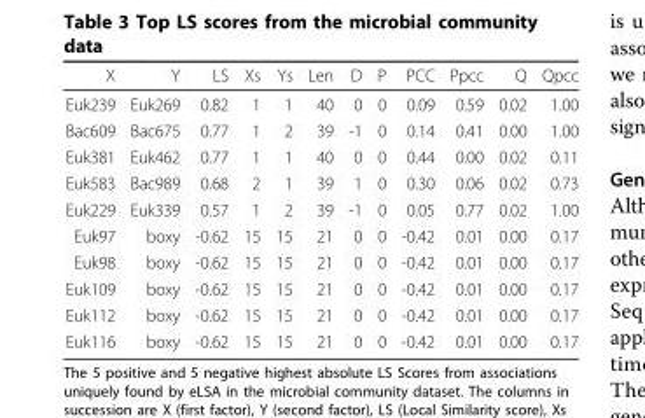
<table><thead><tr><td>X</td><td>Y</td><td>LS</td><td>Xs</td><td>Ys</td><td>Len</td><td>D</td><td>P</td><td>PCC</td><td>Ppcc</td><td>Q</td><td>Qpcc</td></tr></thead><tbody><tr><td>Euk239</td><td>Euk269</td><td>0.82</td><td>1</td><td>1</td><td>40</td><td>0</td><td>0</td><td>0.09</td><td>0.59</td><td>0.02</td><td>1.00</td></tr><tr><td>Bac609</td><td>Bac675</td><td>0.77</td><td>1</td><td>2</td><td>39</td><td>-1</td><td>0</td><td>0.14</td><td>0.41</td><td>0.00</td><td>1.00</td></tr><tr><td>Euk381</td><td>Euk462</td><td>0.77</td><td>1</td><td>1</td><td>40</td><td>0</td><td>0</td><td>0.44</td><td>0.00</td><td>0.02</td><td>0.11</td></tr><tr><td>Euk583</td><td>Bac989</td><td>0.68</td><td>2</td><td>1</td><td>39</td><td>1</td><td>0</td><td>0.30</td><td>0.06</td><td>0.02</td><td>0.73</td></tr><tr><td>Euk229</td><td>Euk339</td><td>0.57</td><td>1</td><td>2</td><td>39</td><td>-1</td><td>0</td><td>0.05</td><td>0.77</td><td>0.02</td><td>1.00</td></tr><tr><td>Euk97</td><td>boxy</td><td>-0.62</td><td>15</td><td>15</td><td>21</td><td>0</td><td>0</td><td>-0.42</td><td>0.01</td><td>0.00</td><td>0.17</td></tr><tr><td>Euk98</td><td>boxy</td><td>-0.62</td><td>15</td><td>15</td><td>21</td><td>0</td><td>0</td><td>-0.42</td><td>0.01</td><td>0.00</td><td>0.17</td></tr><tr><td>Euk109</td><td>boxy</td><td>-0.62</td><td>15</td><td>15</td><td>21</td><td>0</td><td>0</td><td>-0.42</td><td>0.01</td><td>0.00</td><td>0.17</td></tr><tr><td>Euk112</td><td>boxy</td><td>-0.62</td><td>15</td><td>15</td><td>21</td><td>0</td><td>0</td><td>-0.42</td><td>0.01</td><td>0.00</td><td>0.17</td></tr><tr><td>Euk116</td><td>boxy</td><td>-0.62</td><td>15</td><td>15</td><td>21</td><td>0</td><td>0</td><td>-0.42</td><td>0.01</td><td>0.00</td><td>0.17</td></tr></tbody></table>